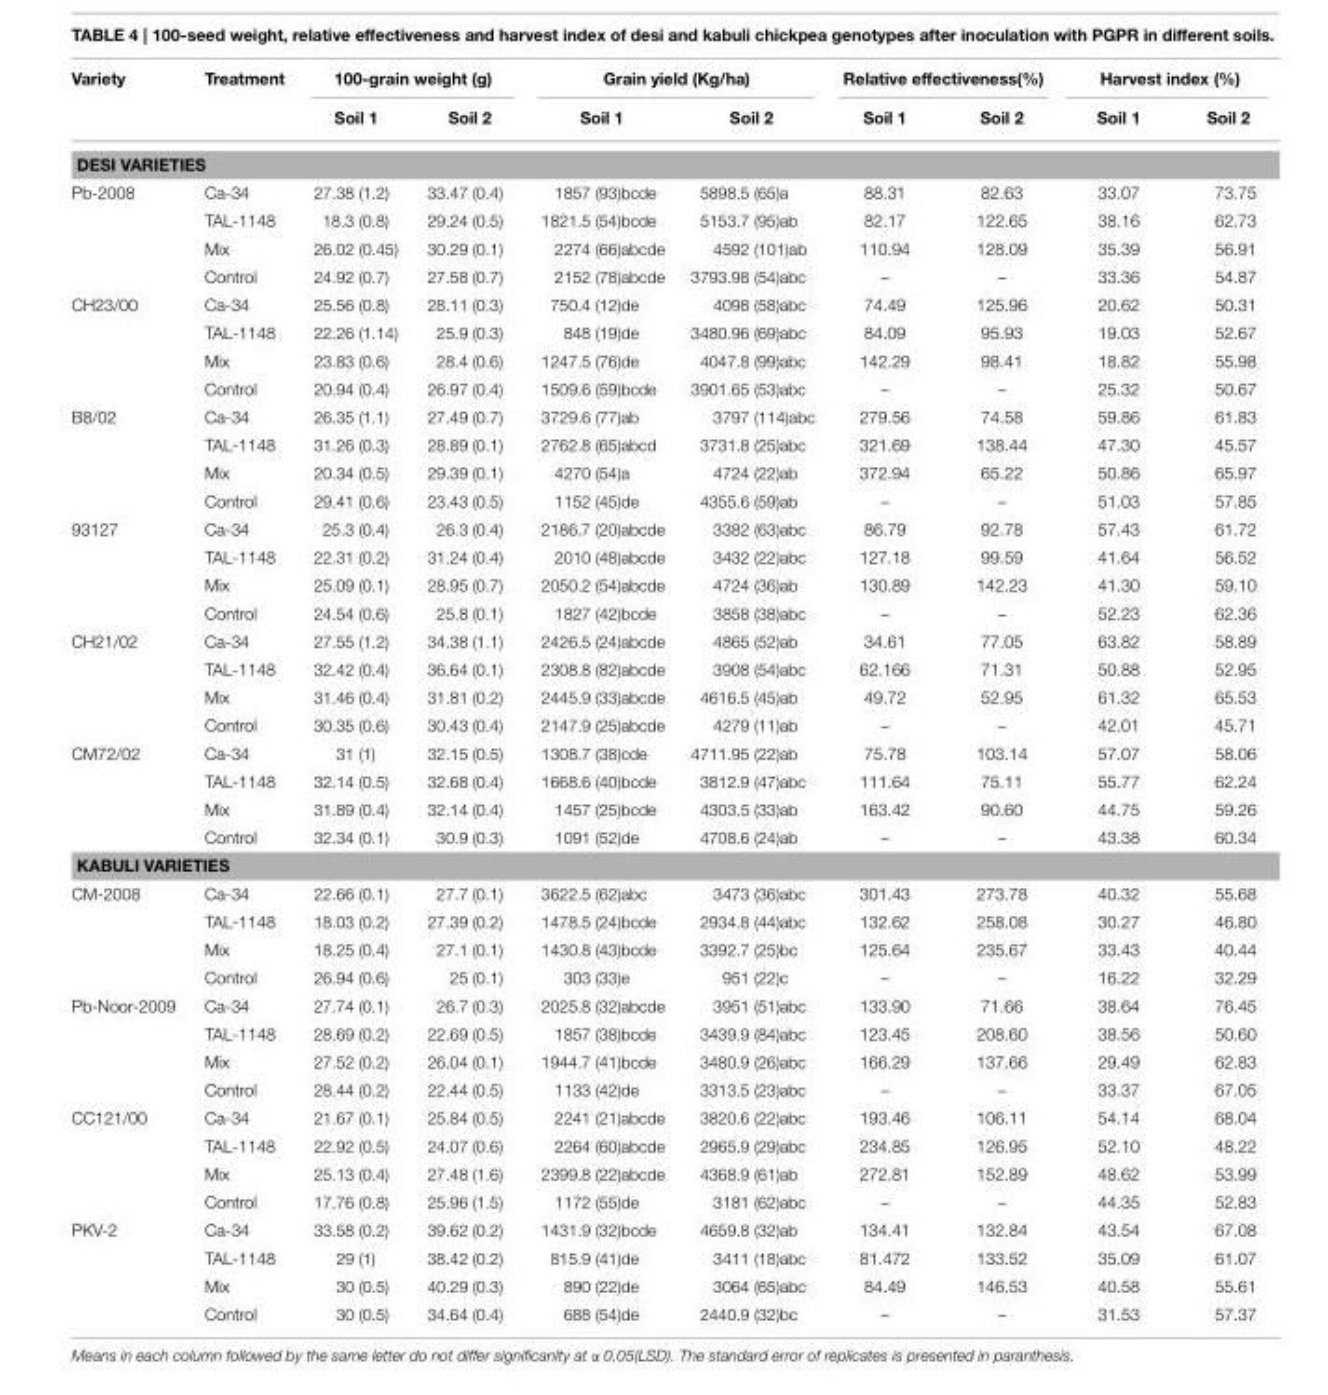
<table><thead><tr><td rowspan="2">Variety</td><td rowspan="2">Treatment</td><td colspan="2">100-grain weight (g)</td><td colspan="2">Grain yield (Kg/ha)</td><td colspan="2">Relative effectiveness(%)</td><td colspan="2">Harvest index (%)</td></tr><tr><td>Soil 1</td><td>Soil 2</td><td>Soil 1</td><td>Soil 2</td><td>Soil 1</td><td>Soil 2</td><td>Soil 1</td><td>Soil 2</td></tr></thead><tbody><tr><td colspan="10">DESI VARIETIES</td></tr><tr><td rowspan="4">Pb-2008</td><td>Ca-34</td><td>27.38 (1.2)</td><td>33.47 (0.4)</td><td>1857 (93)bcde</td><td>5898.5 (65)a</td><td>88.31</td><td>82.63</td><td>33.07</td><td>73.75</td></tr><tr><td>TAL-1148</td><td>18.3 (0.8)</td><td>29.24 (0.5)</td><td>1821.5 (54)bcde</td><td>5153.7 (95)ab</td><td>82.17</td><td>122.65</td><td>38.16</td><td>62.73</td></tr><tr><td>Mix</td><td>26.02 (0.45)</td><td>30.29 (0.1)</td><td>2274 (66)abcde</td><td>4592 (101)ab</td><td>110.94</td><td>128.09</td><td>35.39</td><td>56.91</td></tr><tr><td>Control</td><td>24.92 (0.7)</td><td>27.58 (0.7)</td><td>2152 (78)abcde</td><td>3793.98 (54)abc</td><td>–</td><td>–</td><td>33.36</td><td>54.87</td></tr><tr><td rowspan="4">CH23/00</td><td>Ca-34</td><td>25.56 (0.8)</td><td>28.11 (0.3)</td><td>750.4 (12)de</td><td>4098 (58)abc</td><td>74.49</td><td>125.96</td><td>20.62</td><td>50.31</td></tr><tr><td>TAL-1148</td><td>22.26 (1.14)</td><td>25.9 (0.3)</td><td>848 (19)de</td><td>3480.96 (69)abc</td><td>84.09</td><td>95.93</td><td>19.03</td><td>52.67</td></tr><tr><td>Mix</td><td>23.83 (0.6)</td><td>28.4 (0.6)</td><td>1247.5 (76)de</td><td>4047.8 (99)abc</td><td>142.29</td><td>98.41</td><td>18.82</td><td>55.98</td></tr><tr><td>Control</td><td>20.94 (0.4)</td><td>26.97 (0.4)</td><td>1509.6 (59)bcde</td><td>3901.65 (53)abc</td><td>–</td><td>–</td><td>25.32</td><td>50.67</td></tr><tr><td rowspan="4">B8/02</td><td>Ca-34</td><td>26.35 (1.1)</td><td>27.49 (0.7)</td><td>3729.6 (77)ab</td><td>3797 (114)abc</td><td>279.56</td><td>74.58</td><td>59.86</td><td>61.83</td></tr><tr><td>TAL-1148</td><td>31.26 (0.3)</td><td>28.89 (0.1)</td><td>2762.8 (65)abcd</td><td>3731.8 (25)abc</td><td>321.69</td><td>138.44</td><td>47.30</td><td>45.57</td></tr><tr><td>Mix</td><td>20.34 (0.5)</td><td>29.39 (0.1)</td><td>4270 (54)a</td><td>4724 (22)ab</td><td>372.94</td><td>65.22</td><td>50.86</td><td>65.97</td></tr><tr><td>Control</td><td>29.41 (0.6)</td><td>23.43 (0.5)</td><td>1152 (45)de</td><td>4355.6 (59)ab</td><td>–</td><td>–</td><td>51.03</td><td>57.85</td></tr><tr><td rowspan="4">93127</td><td>Ca-34</td><td>25.3 (0.4)</td><td>26.3 (0.4)</td><td>2186.7 (20)abcde</td><td>3382 (63)abc</td><td>86.79</td><td>92.78</td><td>57.43</td><td>61.72</td></tr><tr><td>TAL-1148</td><td>22.31 (0.2)</td><td>31.24 (0.4)</td><td>2010 (48)abcde</td><td>3432 (22)abc</td><td>127.18</td><td>99.59</td><td>41.64</td><td>56.52</td></tr><tr><td>Mix</td><td>25.09 (0.1)</td><td>28.95 (0.7)</td><td>2050.2 (54)abcde</td><td>4724 (36)ab</td><td>130.89</td><td>142.23</td><td>41.30</td><td>59.10</td></tr><tr><td>Control</td><td>24.54 (0.6)</td><td>25.8 (0.1)</td><td>1827 (42)bcde</td><td>3858 (38)abc</td><td>–</td><td>–</td><td>52.23</td><td>62.36</td></tr><tr><td rowspan="4">CH21/02</td><td>Ca-34</td><td>27.55 (1.2)</td><td>34.38 (1.1)</td><td>2426.5 (24)abcde</td><td>4865 (52)ab</td><td>34.61</td><td>77.05</td><td>63.82</td><td>58.89</td></tr><tr><td>TAL-1148</td><td>32.42 (0.4)</td><td>36.64 (0.1)</td><td>2308.8 (82)abcde</td><td>3908 (54)abc</td><td>62.166</td><td>71.31</td><td>50.88</td><td>52.95</td></tr><tr><td>Mix</td><td>31.46 (0.4)</td><td>31.81 (0.2)</td><td>2445.9 (33)abcde</td><td>4616.5 (45)ab</td><td>49.72</td><td>52.95</td><td>61.32</td><td>65.53</td></tr><tr><td>Control</td><td>30.35 (0.6)</td><td>30.43 (0.4)</td><td>2147.9 (25)abcde</td><td>4279 (11)ab</td><td>–</td><td>–</td><td>42.01</td><td>45.71</td></tr><tr><td rowspan="4">CM72/02</td><td>Ca-34</td><td>31 (1)</td><td>32.15 (0.5)</td><td>1308.7 (38)cde</td><td>4711.95 (22)ab</td><td>75.78</td><td>103.14</td><td>57.07</td><td>58.06</td></tr><tr><td>TAL-1148</td><td>32.14 (0.5)</td><td>32.68 (0.4)</td><td>1668.6 (40)bcde</td><td>3812.9 (47)abc</td><td>111.64</td><td>75.11</td><td>55.77</td><td>62.24</td></tr><tr><td>Mix</td><td>31.89 (0.4)</td><td>32.14 (0.4)</td><td>1457 (25)bcde</td><td>4303.5 (33)ab</td><td>163.42</td><td>90.60</td><td>44.75</td><td>59.26</td></tr><tr><td>Control</td><td>32.34 (0.1)</td><td>30.9 (0.3)</td><td>1091 (52)de</td><td>4708.6 (24)ab</td><td>–</td><td>–</td><td>43.38</td><td>60.34</td></tr><tr><td colspan="10">KABULI VARIETIES</td></tr><tr><td rowspan="4">CM-2008</td><td>Ca-34</td><td>22.66 (0.1)</td><td>27.7 (0.1)</td><td>3622.5 (62)abc</td><td>3473 (36)abc</td><td>301.43</td><td>273.78</td><td>40.32</td><td>55.68</td></tr><tr><td>TAL-1148</td><td>18.03 (0.2)</td><td>27.39 (0.2)</td><td>1478.5 (24)bcde</td><td>2934.8 (44)abc</td><td>132.62</td><td>258.08</td><td>30.27</td><td>46.80</td></tr><tr><td>Mix</td><td>18.25 (0.4)</td><td>27.1 (0.1)</td><td>1430.8 (43)bcde</td><td>3392.7 (25)bc</td><td>125.64</td><td>235.67</td><td>33.43</td><td>40.44</td></tr><tr><td>Control</td><td>26.94 (0.6)</td><td>25 (0.1)</td><td>303 (33)e</td><td>951 (22)c</td><td>–</td><td>–</td><td>16.22</td><td>32.29</td></tr><tr><td rowspan="4">Pb-Noor-2009</td><td>Ca-34</td><td>27.74 (0.1)</td><td>26.7 (0.3)</td><td>2025.8 (32)abcde</td><td>3951 (51)abc</td><td>133.90</td><td>71.66</td><td>38.64</td><td>76.45</td></tr><tr><td>TAL-1148</td><td>28.69 (0.2)</td><td>22.69 (0.5)</td><td>1857 (38)bcde</td><td>3439.9 (84)abc</td><td>123.45</td><td>208.60</td><td>38.56</td><td>50.60</td></tr><tr><td>Mix</td><td>27.52 (0.2)</td><td>26.04 (0.1)</td><td>1944.7 (41)bcde</td><td>3480.9 (26)abc</td><td>166.29</td><td>137.66</td><td>29.49</td><td>62.83</td></tr><tr><td>Control</td><td>28.44 (0.2)</td><td>22.44 (0.5)</td><td>1133 (42)de</td><td>3313.5 (23)abc</td><td>–</td><td>–</td><td>33.37</td><td>67.05</td></tr><tr><td rowspan="4">CC121/00</td><td>Ca-34</td><td>21.67 (0.1)</td><td>25.84 (0.5)</td><td>2241 (21)abcde</td><td>3820.6 (22)abc</td><td>193.46</td><td>106.11</td><td>54.14</td><td>68.04</td></tr><tr><td>TAL-1148</td><td>22.92 (0.5)</td><td>24.07 (0.6)</td><td>2264 (60)abcde</td><td>2965.9 (29)abc</td><td>234.85</td><td>126.95</td><td>52.10</td><td>48.22</td></tr><tr><td>Mix</td><td>25.13 (0.4)</td><td>27.48 (1.6)</td><td>2399.8 (22)abcde</td><td>4368.9 (61)ab</td><td>272.81</td><td>152.89</td><td>48.62</td><td>53.99</td></tr><tr><td>Control</td><td>17.76 (0.8)</td><td>25.96 (1.5)</td><td>1172 (55)de</td><td>3181 (62)abc</td><td>–</td><td>–</td><td>44.35</td><td>52.83</td></tr><tr><td rowspan="4">PKV-2</td><td>Ca-34</td><td>33.58 (0.2)</td><td>39.62 (0.2)</td><td>1431.9 (32)bcde</td><td>4659.8 (32)ab</td><td>134.41</td><td>132.84</td><td>43.54</td><td>67.08</td></tr><tr><td>TAL-1148</td><td>29 (1)</td><td>38.42 (0.2)</td><td>815.9 (41)de</td><td>3411 (18)abc</td><td>81.472</td><td>133.52</td><td>35.09</td><td>61.07</td></tr><tr><td>Mix</td><td>30 (0.5)</td><td>40.29 (0.3)</td><td>890 (22)de</td><td>3064 (65)abc</td><td>84.49</td><td>146.53</td><td>40.58</td><td>55.61</td></tr><tr><td>Control</td><td>30 (0.5)</td><td>34.64 (0.4)</td><td>688 (54)de</td><td>2440.9 (32)bc</td><td>–</td><td>–</td><td>31.53</td><td>57.37</td></tr></tbody></table>